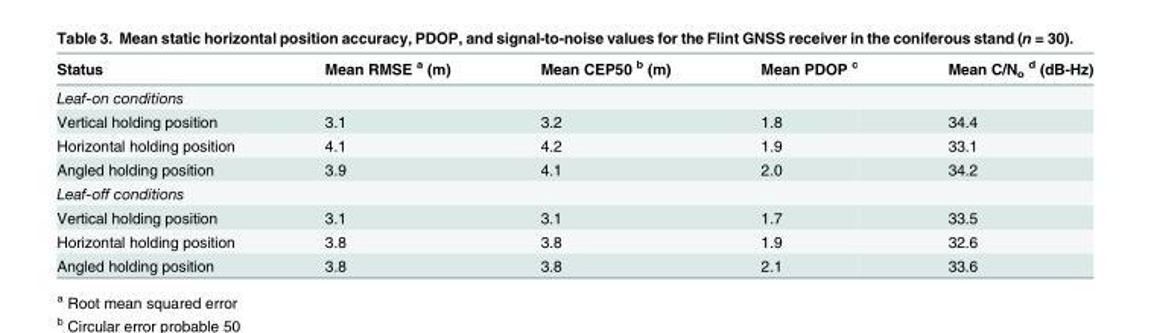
<table><thead><tr><td>Status</td><td>Mean RMSE <sup>a</sup> (m)</td><td>Mean CEP50 <sup>b</sup> (m)</td><td>Mean PDOP <sup>c</sup></td><td>Mean C/N<sub>o</sub> <sup>d</sup> (dB-Hz)</td></tr></thead><tbody><tr><td colspan="5">Leaf-on conditions</td></tr><tr><td>Vertical holding position</td><td>3.1</td><td>3.2</td><td>1.8</td><td>34.4</td></tr><tr><td>Horizontal holding position</td><td>4.1</td><td>4.2</td><td>1.9</td><td>33.1</td></tr><tr><td>Angled holding position</td><td>3.9</td><td>4.1</td><td>2.0</td><td>34.2</td></tr><tr><td colspan="5">Leaf-off conditions</td></tr><tr><td>Vertical holding position</td><td>3.1</td><td>3.1</td><td>1.7</td><td>33.5</td></tr><tr><td>Horizontal holding position</td><td>3.8</td><td>3.8</td><td>1.9</td><td>32.6</td></tr><tr><td>Angled holding position</td><td>3.8</td><td>3.8</td><td>2.1</td><td>33.6</td></tr></tbody></table>